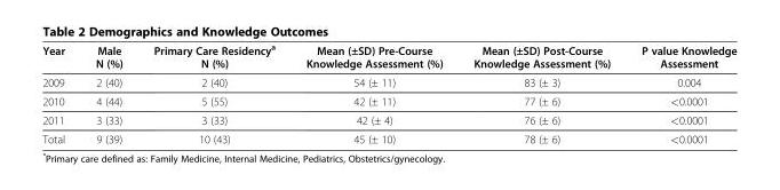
<table><thead><tr><td>Year</td><td>Male N (%)</td><td>Primary Care Residency<sup>a</sup> N (%)</td><td>Mean (±SD) Pre-Course Knowledge Assessment (%)</td><td>Mean (±SD) Post-Course Knowledge Assessment (%)</td><td>P value Knowledge Assessment</td></tr></thead><tbody><tr><td>2009</td><td>2 (40)</td><td>2 (40)</td><td>54 (± 11)</td><td>83 (± 3)</td><td>0.004</td></tr><tr><td>2010</td><td>4 (44)</td><td>5 (55)</td><td>42 (± 11)</td><td>77 (± 6)</td><td>&lt;0.0001</td></tr><tr><td>2011</td><td>3 (33)</td><td>3 (33)</td><td>42 (± 4)</td><td>76 (± 6)</td><td>&lt;0.0001</td></tr><tr><td>Total</td><td>9 (39)</td><td>10 (43)</td><td>45 (± 10)</td><td>78 (± 6)</td><td>&lt;0.0001</td></tr></tbody></table>